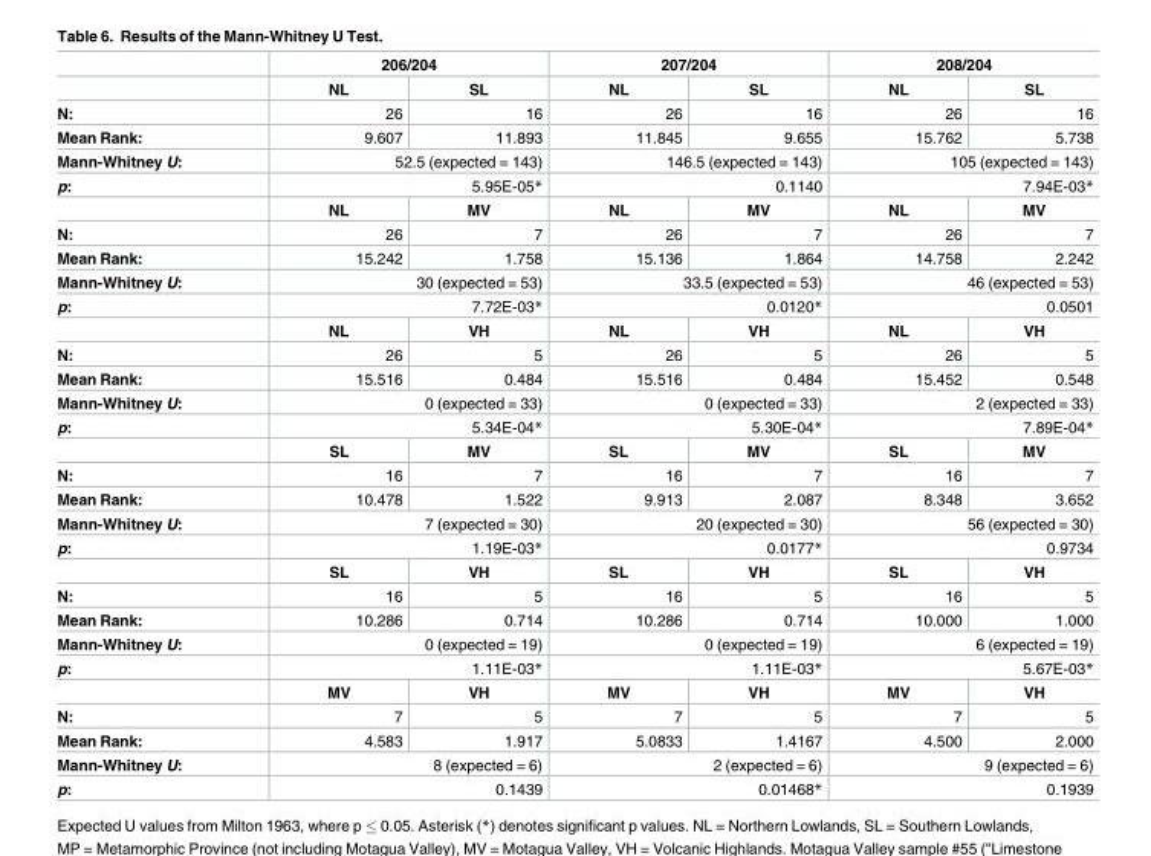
<table><thead><tr><td rowspan="2"></td><td colspan="2">206/204</td><td colspan="2">207/204</td><td colspan="2">208/204</td></tr><tr><td>NL</td><td>SL</td><td>NL</td><td>SL</td><td>NL</td><td>SL</td></tr></thead><tbody><tr><td>N:</td><td>26</td><td>16</td><td>26</td><td>16</td><td>26</td><td>16</td></tr><tr><td>Mean Rank:</td><td>9.607</td><td>11.893</td><td>11.845</td><td>9.655</td><td>15.762</td><td>5.738</td></tr><tr><td>Mann-Whitney U:</td><td colspan="2">52.5 (expected = 143)</td><td colspan="2">146.5 (expected = 143)</td><td colspan="2">105 (expected = 143)</td></tr><tr><td rowspan="2">p:</td><td colspan="2">5.95E-05*</td><td colspan="2">0.1140</td><td colspan="2">7.94E-03*</td></tr><tr><td>NL</td><td>MV</td><td>NL</td><td>MV</td><td>NL</td><td>MV</td></tr><tr><td>N:</td><td>26</td><td>7</td><td>26</td><td>7</td><td>26</td><td>7</td></tr><tr><td>Mean Rank:</td><td>15.242</td><td>1.758</td><td>15.136</td><td>1.864</td><td>14.758</td><td>2.242</td></tr><tr><td>Mann-Whitney U:</td><td colspan="2">30 (expected = 53)</td><td colspan="2">33.5 (expected = 53)</td><td colspan="2">46 (expected = 53)</td></tr><tr><td rowspan="2">p:</td><td colspan="2">7.72E-03*</td><td colspan="2">0.0120*</td><td colspan="2">0.0501</td></tr><tr><td>NL</td><td>VH</td><td>NL</td><td>VH</td><td>NL</td><td>VH</td></tr><tr><td>N:</td><td>26</td><td>5</td><td>26</td><td>5</td><td>26</td><td>5</td></tr><tr><td>Mean Rank:</td><td>15.516</td><td>0.484</td><td>15.516</td><td>0.484</td><td>15.452</td><td>0.548</td></tr><tr><td>Mann-Whitney U:</td><td colspan="2">0 (expected = 33)</td><td colspan="2">0 (expected = 33)</td><td colspan="2">2 (expected = 33)</td></tr><tr><td rowspan="2">p:</td><td colspan="2">5.34E-04*</td><td colspan="2">5.30E-04*</td><td colspan="2">7.89E-04*</td></tr><tr><td>SL</td><td>MV</td><td>SL</td><td>MV</td><td>SL</td><td>MV</td></tr><tr><td>N:</td><td>16</td><td>7</td><td>16</td><td>7</td><td>16</td><td>7</td></tr><tr><td>Mean Rank:</td><td>10.478</td><td>1.522</td><td>9.913</td><td>2.087</td><td>8.348</td><td>3.652</td></tr><tr><td>Mann-Whitney U:</td><td colspan="2">7 (expected = 30)</td><td colspan="2">20 (expected = 30)</td><td colspan="2">56 (expected = 30)</td></tr><tr><td rowspan="2">p:</td><td colspan="2">1.19E-03*</td><td colspan="2">0.0177*</td><td colspan="2">0.9734</td></tr><tr><td>SL</td><td>VH</td><td>SL</td><td>VH</td><td>SL</td><td>VH</td></tr><tr><td>N:</td><td>16</td><td>5</td><td>16</td><td>5</td><td>16</td><td>5</td></tr><tr><td>Mean Rank:</td><td>10.286</td><td>0.714</td><td>10.286</td><td>0.714</td><td>10.000</td><td>1.000</td></tr><tr><td>Mann-Whitney U:</td><td colspan="2">0 (expected = 19)</td><td colspan="2">0 (expected = 19)</td><td colspan="2">6 (expected = 19)</td></tr><tr><td rowspan="2">p:</td><td colspan="2">1.11E-03*</td><td colspan="2">1.11E-03*</td><td colspan="2">5.67E-03*</td></tr><tr><td>MV</td><td>VH</td><td>MV</td><td>VH</td><td>MV</td><td>VH</td></tr><tr><td>N:</td><td>7</td><td>5</td><td>7</td><td>5</td><td>7</td><td>5</td></tr><tr><td>Mean Rank:</td><td>4.583</td><td>1.917</td><td>5.0833</td><td>1.4167</td><td>4.500</td><td>2.000</td></tr><tr><td>Mann-Whitney U:</td><td colspan="2">8 (expected = 6)</td><td colspan="2">2 (expected = 6)</td><td colspan="2">9 (expected = 6)</td></tr><tr><td>p:</td><td colspan="2">0.1439</td><td colspan="2">0.01468*</td><td colspan="2">0.1939</td></tr></tbody></table>